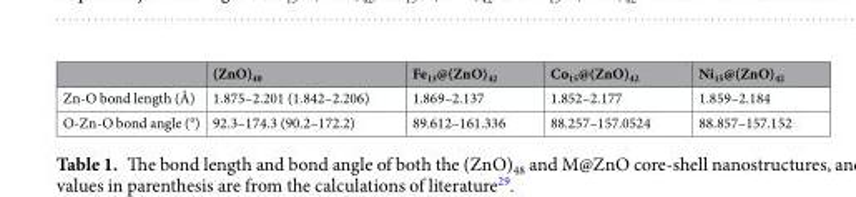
<table><thead><tr><td></td><td>(ZnO)<sub>48</sub></td><td>Fe<sub>13</sub>@(ZnO)<sub>42</sub></td><td>Co<sub>15</sub>@(ZnO)<sub>42</sub></td><td>Ni<sub>15</sub>@(ZnO)<sub>42</sub></td></tr></thead><tbody><tr><td>Zn-O bond length (Å)</td><td>1.875–2.201 (1.842–2.206)</td><td>1.869–2.137</td><td>1.852–2.177</td><td>1.859–2.184</td></tr><tr><td>O-Zn-O bond angle (°)</td><td>92.3–174.3 (90.2–172.2)</td><td>89.612–161.336</td><td>88.257–157.0524</td><td>88.857–157.152</td></tr></tbody></table>